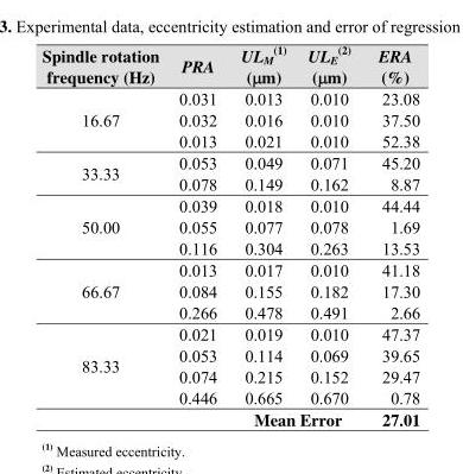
<table><thead><tr><td>Spindle rotation frequency (Hz)</td><td>PRA</td><td>UL<sub>M</sub> <sup>(1)</sup> (μm)</td><td>UL<sub>E</sub> <sup>(2)</sup> (μm)</td><td>ERA (%)</td></tr></thead><tbody><tr><td rowspan="3">16.67</td><td>0.031</td><td>0.013</td><td>0.010</td><td>23.08</td></tr><tr><td>0.032</td><td>0.016</td><td>0.010</td><td>37.50</td></tr><tr><td>0.013</td><td>0.021</td><td>0.010</td><td>52.38</td></tr><tr><td rowspan="2">33.33</td><td>0.053</td><td>0.049</td><td>0.071</td><td>45.20</td></tr><tr><td>0.078</td><td>0.149</td><td>0.162</td><td>8.87</td></tr><tr><td rowspan="3">50.00</td><td>0.039</td><td>0.018</td><td>0.010</td><td>44.44</td></tr><tr><td>0.055</td><td>0.077</td><td>0.078</td><td>1.69</td></tr><tr><td>0.116</td><td>0.304</td><td>0.263</td><td>13.53</td></tr><tr><td rowspan="3">66.67</td><td>0.013</td><td>0.017</td><td>0.010</td><td>41.18</td></tr><tr><td>0.084</td><td>0.155</td><td>0.182</td><td>17.30</td></tr><tr><td>0.266</td><td>0.478</td><td>0.491</td><td>2.66</td></tr><tr><td rowspan="5">83.33</td><td>0.021</td><td>0.019</td><td>0.010</td><td>47.37</td></tr><tr><td>0.053</td><td>0.114</td><td>0.069</td><td>39.65</td></tr><tr><td>0.074</td><td>0.215</td><td>0.152</td><td>29.47</td></tr><tr><td>0.446</td><td>0.665</td><td>0.670</td><td>0.78</td></tr><tr><td></td><td colspan="2">Mean Error</td><td>27.01</td></tr></tbody></table>